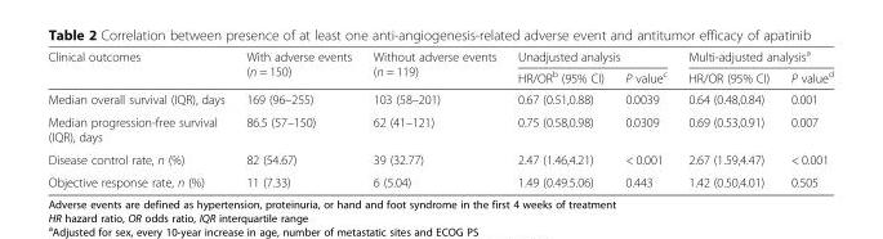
<table><thead><tr><td rowspan="2">Clinical outcomes</td><td rowspan="2">With adverse events (n = 150)</td><td rowspan="2">Without adverse events (n = 119)</td><td colspan="2">Unadjusted analysis</td><td colspan="2">Multi-adjusted analysis<sup>a</sup></td></tr><tr><td>HR/OR<sup>b</sup> (95% CI)</td><td>P value<sup>c</sup></td><td>HR/OR (95% CI)</td><td>P value<sup>d</sup></td></tr></thead><tbody><tr><td>Median overall survival (IQR), days</td><td>169 (96–255)</td><td>103 (58–201)</td><td>0.67 (0.51,0.88)</td><td>0.0039</td><td>0.64 (0.48,0.84)</td><td>0.001</td></tr><tr><td>Median progression-free survival (IQR), days</td><td>86.5 (57–150)</td><td>62 (41–121)</td><td>0.75 (0.58,0.98)</td><td>0.0309</td><td>0.69 (0.53,0.91)</td><td>0.007</td></tr><tr><td>Disease control rate, n (%)</td><td>82 (54.67)</td><td>39 (32.77)</td><td>2.47 (1.46,4.21)</td><td>&lt; 0.001</td><td>2.67 (1.59,4.47)</td><td>&lt; 0.001</td></tr><tr><td>Objective response rate, n (%)</td><td>11 (7.33)</td><td>6 (5.04)</td><td>1.49 (0.49.5.06)</td><td>0.443</td><td>1.42 (0.50,4.01)</td><td>0.505</td></tr></tbody></table>